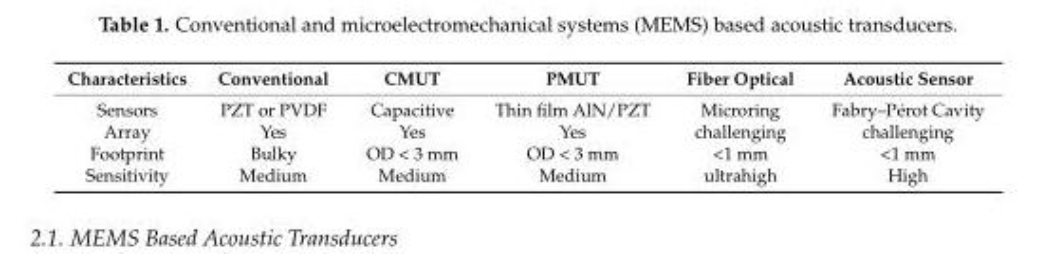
<table><thead><tr><td>Characteristics</td><td>Conventional</td><td>CMUT</td><td>PMUT</td><td>Fiber Optical</td><td>Acoustic Sensor</td></tr></thead><tbody><tr><td>Sensors</td><td>PZT or PVDF</td><td>Capacitive</td><td>Thin film AlN/PZT</td><td>Microring</td><td>Fabry–Pérot Cavity</td></tr><tr><td>Array</td><td>Yes</td><td>Yes</td><td>Yes</td><td>challenging</td><td>challenging</td></tr><tr><td>Footprint</td><td>Bulky</td><td>OD &lt; 3 mm</td><td>OD &lt; 3 mm</td><td>&lt;1 mm</td><td>&lt;1 mm</td></tr><tr><td>Sensitivity</td><td>Medium</td><td>Medium</td><td>Medium</td><td>ultrahigh</td><td>High</td></tr></tbody></table>